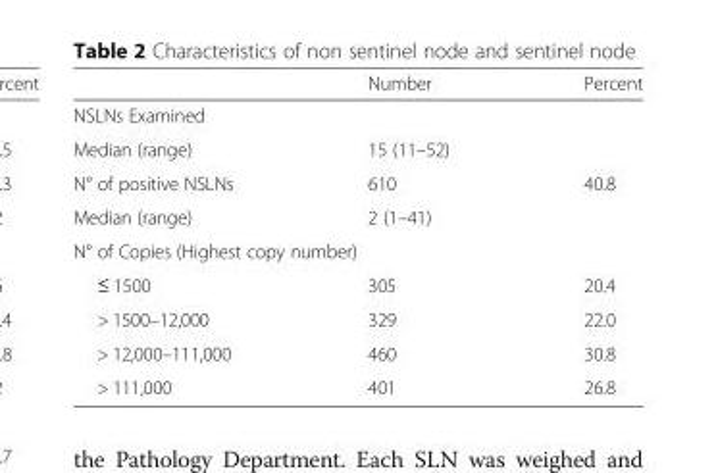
<table><thead><tr><td></td><td>Number</td><td>Percent</td></tr></thead><tbody><tr><td colspan="3">NSLNs Examined</td></tr><tr><td>Median (range)</td><td>15 (11–52)</td><td></td></tr><tr><td>N° of positive NSLNs</td><td>610</td><td rowspan="2">40.8</td></tr><tr><td>Median (range)</td><td>2 (1–41)</td></tr><tr><td colspan="3">N° of Copies (Highest copy number)</td></tr><tr><td>≤ 1500</td><td>305</td><td>20.4</td></tr><tr><td>&gt; 1500–12,000</td><td>329</td><td>22.0</td></tr><tr><td>&gt; 12,000–111,000</td><td>460</td><td>30.8</td></tr><tr><td>&gt; 111,000</td><td>401</td><td>26.8</td></tr></tbody></table>